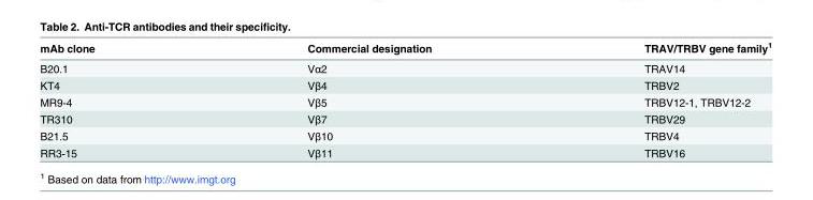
<table><thead><tr><td>mAb clone</td><td>Commercial designation</td><td>TRAV/TRBV gene family<sup>1</sup></td></tr></thead><tbody><tr><td>B20.1</td><td>Vα2</td><td>TRAV14</td></tr><tr><td>KT4</td><td>Vβ4</td><td>TRBV2</td></tr><tr><td>MR9-4</td><td>Vβ5</td><td>TRBV12-1, TRBV12-2</td></tr><tr><td>TR310</td><td>Vβ7</td><td>TRBV29</td></tr><tr><td>B21.5</td><td>Vβ10</td><td>TRBV4</td></tr><tr><td>RR3-15</td><td>Vβ11</td><td>TRBV16</td></tr></tbody></table>